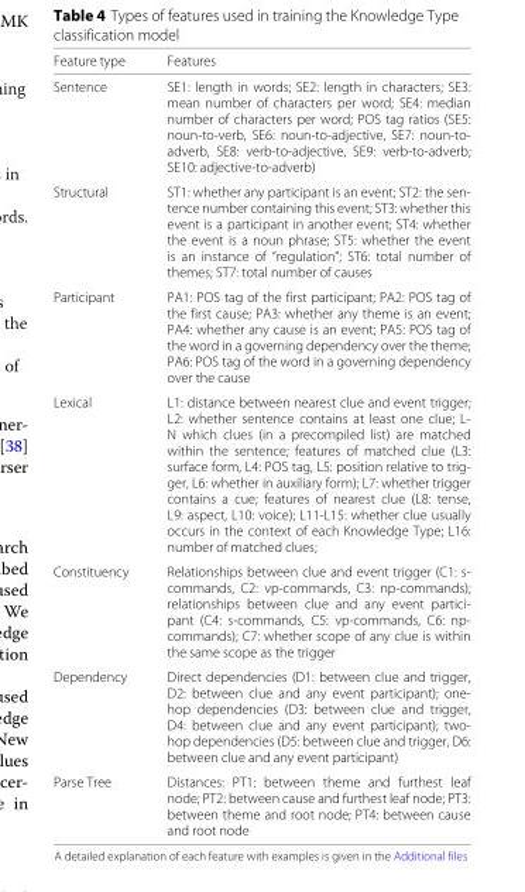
<table><thead><tr><td>Feature type</td><td>Features</td></tr></thead><tbody><tr><td>Sentence</td><td>SE1: length in words; SE2: length in characters; SE3: mean number of characters per word; SE4: median number of characters per word; POS tag ratios (SE5: noun-to-verb, SE6: noun-to-adjective, SE7: noun-to- adverb, SE8: verb-to-adjective, SE9: verb-to-adverb; SE10: adjective-to-adverb)</td></tr><tr><td>Structural</td><td>ST1: whether any participant is an event; ST2: the sen- tence number containing this event; ST3: whether this event is a participant in another event; ST4: whether the event is a noun phrase; ST5: whether the event is an instance of “regulation”; ST6: total number of themes; ST7: total number of causes</td></tr><tr><td>Participant</td><td>PA1: POS tag of the first participant; PA2: POS tag of the first cause; PA3: whether any theme is an event; PA4: whether any cause is an event; PA5: POS tag of the word in a governing dependency over the theme; PA6: POS tag of the word in a governing dependency over the cause</td></tr><tr><td>Lexical</td><td>L1: distance between nearest clue and event trigger; L2: whether sentence contains at least one clue; L- N which clues (in a precompiled list) are matched within the sentence; features of matched clue (L3: surface form, L4: POS tag, L5: position relative to trig- ger, L6: whether in auxiliary form); L7: whether trigger contains a cue; features of nearest clue (L8: tense, L9: aspect, L10: voice); L11-L15: whether clue usually occurs in the context of each Knowledge Type; L16: number of matched clues;</td></tr><tr><td>Constituency</td><td>Relationships between clue and event trigger (C1: s- commands, C2: vp-commands, C3: np-commands); relationships between clue and any event partici- pant (C4: s-commands, C5: vp-commands, C6: np- commands); C7: whether scope of any clue is within the same scope as the trigger</td></tr><tr><td>Dependency</td><td>Direct dependencies (D1: between clue and trigger, D2: between clue and any event participant); one- hop dependencies (D3: between clue and trigger, D4: between clue and any event participant); two- hop dependencies (D5: between clue and trigger, D6: between clue and any event participant)</td></tr><tr><td>Parse Tree</td><td>Distances: PT1: between theme and furthest leaf node; PT2: between cause and furthest leaf node; PT3: between theme and root node; PT4: between cause and root node</td></tr></tbody></table>